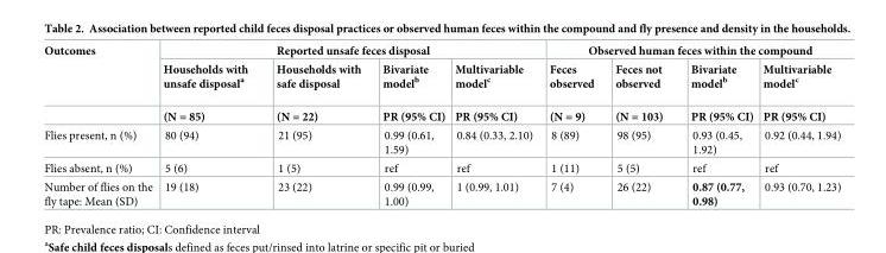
<table><thead><tr><td rowspan="3">Outcomes</td><td colspan="4">Reported unsafe feces disposal</td><td colspan="4">Observed human feces within the compound</td></tr><tr><td rowspan="2">Households with unsafe disposal<sup>a</sup> (N = 85)</td><td rowspan="2">Households with safe disposal (N = 22)</td><td rowspan="2">Bivariate model<sup>b</sup> PR (95% CI)</td><td rowspan="2">Multivariable model<sup>c</sup> PR (95% CI)</td><td rowspan="2">Feces observed (N = 9)</td><td rowspan="2">Feces not observed (N = 103)</td><td rowspan="2">Bivariate model<sup>b</sup> PR (95% CI)</td><td rowspan="2">Multivariable model<sup>c</sup> PR (95% CI)</td></tr><tr></tr></thead><tbody><tr><td>Flies present, n (%)</td><td>80 (94)</td><td>21 (95)</td><td>0.99 (0.61, 1.59)</td><td>0.84 (0.33, 2.10)</td><td>8 (89)</td><td>98 (95)</td><td>0.93 (0.45, 1.92)</td><td>0.92 (0.44, 1.94)</td></tr><tr><td>Flies absent, n (%)</td><td>5 (6)</td><td>1 (5)</td><td>ref</td><td>ref</td><td>1 (11)</td><td>5 (5)</td><td>ref</td><td>ref</td></tr><tr><td>Number of flies on the fly tape: Mean (SD)</td><td>19 (18)</td><td>23 (22)</td><td>0.99 (0.99, 1.00)</td><td>1 (0.99, 1.01)</td><td>7 (4)</td><td>26 (22)</td><td>0.87 (0.77, 0.98)</td><td>0.93 (0.70, 1.23)</td></tr></tbody></table>